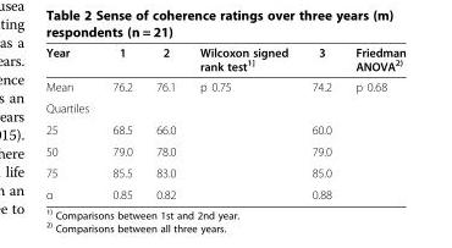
<table><thead><tr><td>Year</td><td>1</td><td>2</td><td>Wilcoxon signed rank test<sup>1]</sup></td><td>3</td><td>Friedman ANOVA<sup>2)</sup></td></tr></thead><tbody><tr><td>Mean</td><td>76.2</td><td>76.1</td><td>p 0.75</td><td>74.2</td><td>p 0.68</td></tr><tr><td colspan="6">Quartiles</td></tr><tr><td>25</td><td>68.5</td><td>66.0</td><td></td><td>60.0</td><td></td></tr><tr><td>50</td><td>79.0</td><td>78.0</td><td></td><td>79.0</td><td></td></tr><tr><td>75</td><td>85.5</td><td>83.0</td><td></td><td>85.0</td><td></td></tr><tr><td>α</td><td>0.85</td><td>0.82</td><td></td><td>0.88</td><td></td></tr></tbody></table>